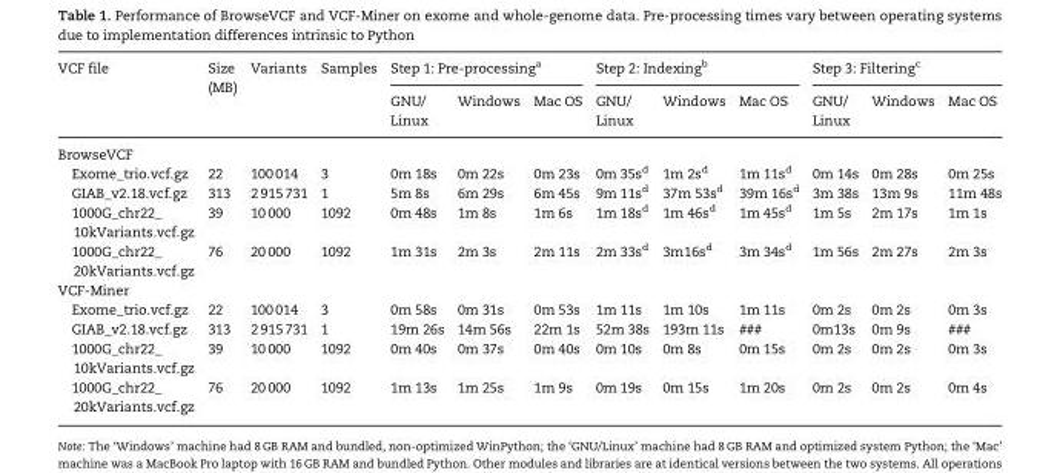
<table><thead><tr><td rowspan="2">VCF file</td><td rowspan="2">Size (MB)</td><td rowspan="2">Variants</td><td rowspan="2">Samples</td><td colspan="3">Step 1: Pre-processing<sup>a</sup></td><td colspan="3">Step 2: Indexing<sup>b</sup></td><td colspan="3">Step 3: Filtering<sup>c</sup></td></tr><tr><td>GNU/ Linux</td><td>Windows</td><td>Mac OS</td><td>GNU/ Linux</td><td>Windows</td><td>Mac OS</td><td>GNU/ Linux</td><td>Windows</td><td>Mac OS</td></tr></thead><tbody><tr><td colspan="13">BrowseVCF</td></tr><tr><td>Exome_trio.vcf.gz</td><td>22</td><td>100 014</td><td>3</td><td>0m 18s</td><td>0m 22s</td><td>0m 23s</td><td>0m 35s<sup>d</sup></td><td>1m 2s<sup>d</sup></td><td>1m 11s<sup>d</sup></td><td>0m 14s</td><td>0m 28s</td><td>0m 25s</td></tr><tr><td>GIAB_v2.18.vcf.gz</td><td>313</td><td>2 915 731</td><td>1</td><td>5m 8s</td><td>6m 29s</td><td>6m 45s</td><td>9m 11s<sup>d</sup></td><td>37m 53s<sup>d</sup></td><td>39m 16s<sup>d</sup></td><td>3m 38s</td><td>13m 9s</td><td>11m 48s</td></tr><tr><td>1000G_chr22_ 10kVariants.vcf.gz</td><td>39</td><td>10 000</td><td>1092</td><td>0m 48s</td><td>1m 8s</td><td>1m 6s</td><td>1m 18s<sup>d</sup></td><td>1m 46s<sup>d</sup></td><td>1m 45s<sup>d</sup></td><td>1m 5s</td><td>2m 17s</td><td>1m 1s</td></tr><tr><td>1000G_chr22_ 20kVariants.vcf.gz</td><td>76</td><td>20 000</td><td>1092</td><td>1m 31s</td><td>2m 3s</td><td>2m 11s</td><td>2m 33s<sup>d</sup></td><td>3m16s<sup>d</sup></td><td>3m 34s<sup>d</sup></td><td>1m 56s</td><td>2m 27s</td><td>2m 3s</td></tr><tr><td colspan="13">VCF-Miner</td></tr><tr><td>Exome_trio.vcf.gz</td><td>22</td><td>100 014</td><td>3</td><td>0m 58s</td><td>0m 31s</td><td>0m 53s</td><td>1m 11s</td><td>1m 10s</td><td>1m 11s</td><td>0m 2s</td><td>0m 2s</td><td>0m 3s</td></tr><tr><td>GIAB_v2.18.vcf.gz</td><td>313</td><td>2 915 731</td><td>1</td><td>19m 26s</td><td>14m 56s</td><td>22m 1s</td><td>52m 38s</td><td>193m 11s</td><td>###</td><td>0m13s</td><td>0m 9s</td><td>###</td></tr><tr><td>1000G_chr22_ 10kVariants.vcf.gz</td><td>39</td><td>10 000</td><td>1092</td><td>0m 40s</td><td>0m 37s</td><td>0m 40s</td><td>0m 10s</td><td>0m 8s</td><td>0m 15s</td><td>0m 2s</td><td>0m 2s</td><td>0m 3s</td></tr><tr><td>1000G_chr22_ 20kVariants.vcf.gz</td><td>76</td><td>20 000</td><td>1092</td><td>1m 13s</td><td>1m 25s</td><td>1m 9s</td><td>0m 19s</td><td>0m 15s</td><td>1m 20s</td><td>0m 2s</td><td>0m 2s</td><td>0m 4s</td></tr></tbody></table>